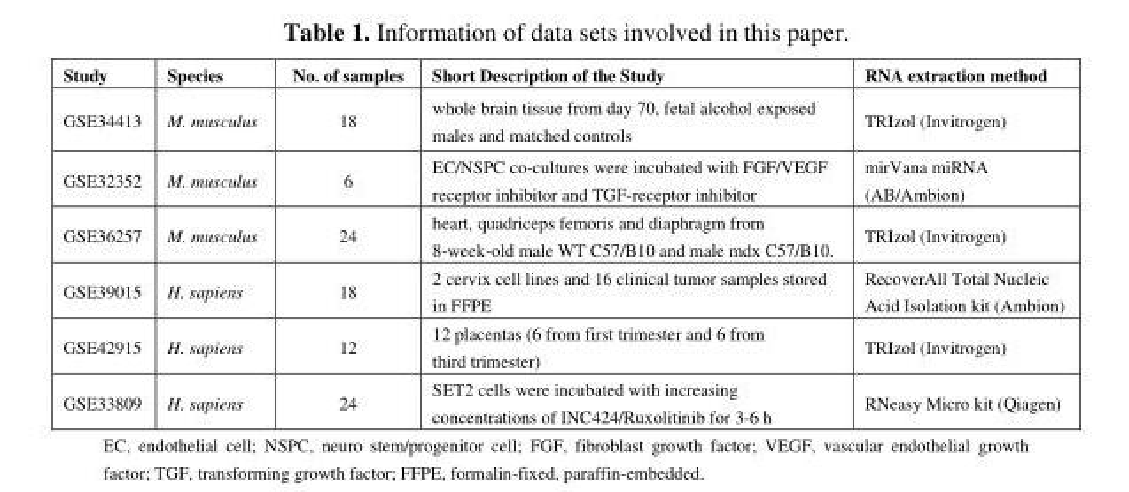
<table><thead><tr><td>Study</td><td>Species</td><td>No. of samples</td><td>Short Description of the Study</td><td>RNA extraction method</td></tr></thead><tbody><tr><td>GSE34413</td><td>M. musculus</td><td>18</td><td>whole brain tissue from day 70, fetal alcohol exposed males and matched controls</td><td>TRIzol (Invitrogen)</td></tr><tr><td>GSE32352</td><td>M. musculus</td><td>6</td><td>EC/NSPC co-cultures were incubated with FGF/VEGF receptor inhibitor and TGF-receptor inhibitor</td><td>mirVana miRNA (AB/Ambion)</td></tr><tr><td>GSE36257</td><td>M. musculus</td><td>24</td><td>heart, quadriceps femoris and diaphragm from 8-week-old male WT C57/B10 and male mdx C57/B10.</td><td>TRIzol (Invitrogen)</td></tr><tr><td>GSE39015</td><td>H. sapiens</td><td>18</td><td>2 cervix cell lines and 16 clinical tumor samples stored in FFPE</td><td>RecoverAll Total Nucleic Acid Isolation kit (Ambion)</td></tr><tr><td>GSE42915</td><td>H. sapiens</td><td>12</td><td>12 placentas (6 from first trimester and 6 from third trimester)</td><td>TRIzol (Invitrogen)</td></tr><tr><td>GSE33809</td><td>H. sapiens</td><td>24</td><td>SET2 cells were incubated with increasing concentrations of INC424/Ruxolitinib for 3-6 h</td><td>RNeasy Micro kit (Qiagen)</td></tr></tbody></table>